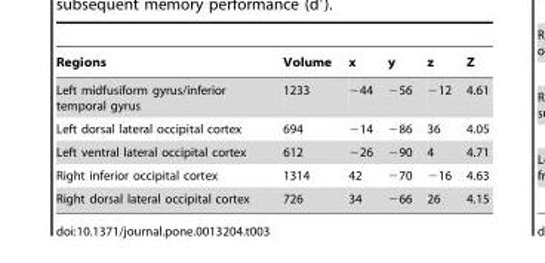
<table><thead><tr><td>Regions</td><td>Volume</td><td>x</td><td>y</td><td>z</td><td>Z</td></tr></thead><tbody><tr><td>Left midfusiform gyrus/inferior temporal gyrus</td><td>1233</td><td>−44</td><td>−56</td><td>−12</td><td>4.61</td></tr><tr><td>Left dorsal lateral occipital cortex</td><td>694</td><td>−14</td><td>−86</td><td>36</td><td>4.05</td></tr><tr><td>Left ventral lateral occipital cortex</td><td>612</td><td>−26</td><td>−90</td><td>4</td><td>4.71</td></tr><tr><td>Right inferior occipital cortex</td><td>1314</td><td>42</td><td>−70</td><td>−16</td><td>4.63</td></tr><tr><td>Right dorsal lateral occipital cortex</td><td>726</td><td>34</td><td>−66</td><td>26</td><td>4.15</td></tr></tbody></table>